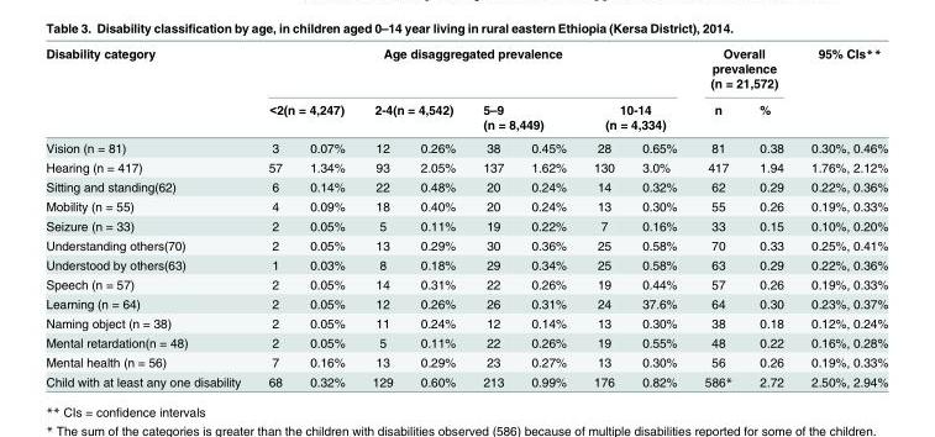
<table><thead><tr><td rowspan="3">Disability category Vision (n = 81)</td><td colspan="8">Age disaggregated prevalence</td><td colspan="2">Overall prevalence (n = 21,572)</td><td rowspan="3">95% CIs** 0.30%, 0.46%</td></tr><tr><td colspan="2">&lt;2(n = 4,247)</td><td colspan="2">2-4(n = 4,542)</td><td colspan="2">5–9 (n = 8,449)</td><td colspan="2">10-14 (n = 4,334)</td><td rowspan="2">n 81</td><td rowspan="2">% 0.38</td></tr><tr><td>3</td><td>0.07%</td><td>12</td><td>0.26%</td><td>38</td><td>0.45%</td><td>28</td><td>0.65%</td></tr></thead><tbody><tr><td>Hearing (n = 417)</td><td>57</td><td>1.34%</td><td>93</td><td>2.05%</td><td>137</td><td>1.62%</td><td>130</td><td>3.0%</td><td>417</td><td>1.94</td><td>1.76%, 2.12%</td></tr><tr><td>Sitting and standing(62)</td><td>6</td><td>0.14%</td><td>22</td><td>0.48%</td><td>20</td><td>0.24%</td><td>14</td><td>0.32%</td><td>62</td><td>0.29</td><td>0.22%, 0.36%</td></tr><tr><td>Mobility (n = 55)</td><td>4</td><td>0.09%</td><td>18</td><td>0.40%</td><td>20</td><td>0.24%</td><td>13</td><td>0.30%</td><td>55</td><td>0.26</td><td>0.19%, 0.33%</td></tr><tr><td>Seizure (n = 33)</td><td>2</td><td>0.05%</td><td>5</td><td>0.11%</td><td>19</td><td>0.22%</td><td>7</td><td>0.16%</td><td>33</td><td>0.15</td><td>0.10%, 0.20%</td></tr><tr><td>Understanding others(70)</td><td>2</td><td>0.05%</td><td>13</td><td>0.29%</td><td>30</td><td>0.36%</td><td>25</td><td>0.58%</td><td>70</td><td>0.33</td><td>0.25%, 0.41%</td></tr><tr><td>Understood by others(63)</td><td>1</td><td>0.03%</td><td>8</td><td>0.18%</td><td>29</td><td>0.34%</td><td>25</td><td>0.58%</td><td>63</td><td>0.29</td><td>0.22%, 0.36%</td></tr><tr><td>Speech (n = 57)</td><td>2</td><td>0.05%</td><td>14</td><td>0.31%</td><td>22</td><td>0.26%</td><td>19</td><td>0.44%</td><td>57</td><td>0.26</td><td>0.19%, 0.33%</td></tr><tr><td>Learning (n = 64)</td><td>2</td><td>0.05%</td><td>12</td><td>0.26%</td><td>26</td><td>0.31%</td><td>24</td><td>37.6%</td><td>64</td><td>0.30</td><td>0.23%, 0.37%</td></tr><tr><td>Naming object (n = 38)</td><td>2</td><td>0.05%</td><td>11</td><td>0.24%</td><td>12</td><td>0.14%</td><td>13</td><td>0.30%</td><td>38</td><td>0.18</td><td>0.12%, 0.24%</td></tr><tr><td>Mental retardation(n = 48)</td><td>2</td><td>0.05%</td><td>5</td><td>0.11%</td><td>22</td><td>0.26%</td><td>19</td><td>0.55%</td><td>48</td><td>0.22</td><td>0.16%, 0.28%</td></tr><tr><td>Mental health (n = 56)</td><td>7</td><td>0.16%</td><td>13</td><td>0.29%</td><td>23</td><td>0.27%</td><td>13</td><td>0.30%</td><td>56</td><td>0.26</td><td>0.19%, 0.33%</td></tr><tr><td>Child with at least any one disability</td><td>68</td><td>0.32%</td><td>129</td><td>0.60%</td><td>213</td><td>0.99%</td><td>176</td><td>0.82%</td><td>586*</td><td>2.72</td><td>2.50%, 2.94%</td></tr></tbody></table>